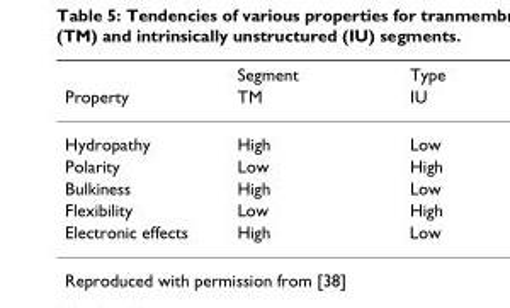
<table><thead><tr><td rowspan="2">Property</td><td rowspan="2">Segment TM</td><td rowspan="2">Type IU</td></tr><tr></tr></thead><tbody><tr><td>Hydropathy</td><td>High</td><td>Low</td></tr><tr><td>Polarity</td><td>Low</td><td>High</td></tr><tr><td>Bulkiness</td><td>High</td><td>Low</td></tr><tr><td>Flexibility</td><td>Low</td><td>High</td></tr><tr><td>Electronic effects</td><td>High</td><td>Low</td></tr></tbody></table>